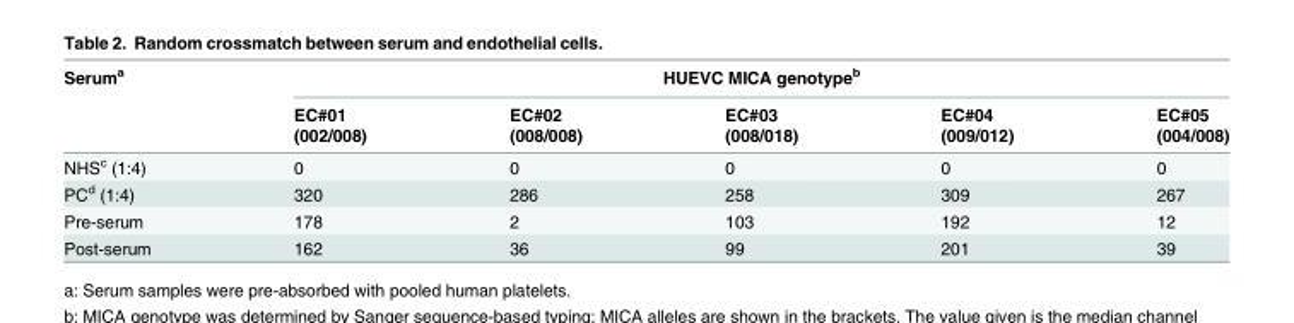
<table><thead><tr><td rowspan="3">Serum<sup>a</sup></td><td colspan="5">HUEVC MICA genotype<sup>b</sup></td></tr><tr><td rowspan="2">EC#01 (002/008)</td><td rowspan="2">EC#02 (008/008)</td><td rowspan="2">EC#03 (008/018)</td><td rowspan="2">EC#04 (009/012)</td><td rowspan="2">EC#05 (004/008)</td></tr><tr></tr></thead><tbody><tr><td>NHS<sup>c</sup> (1:4)</td><td>0</td><td>0</td><td>0</td><td>0</td><td>0</td></tr><tr><td>PC<sup>d</sup> (1:4)</td><td>320</td><td>286</td><td>258</td><td>309</td><td>267</td></tr><tr><td>Pre-serum</td><td>178</td><td>2</td><td>103</td><td>192</td><td>12</td></tr><tr><td>Post-serum</td><td>162</td><td>36</td><td>99</td><td>201</td><td>39</td></tr></tbody></table>